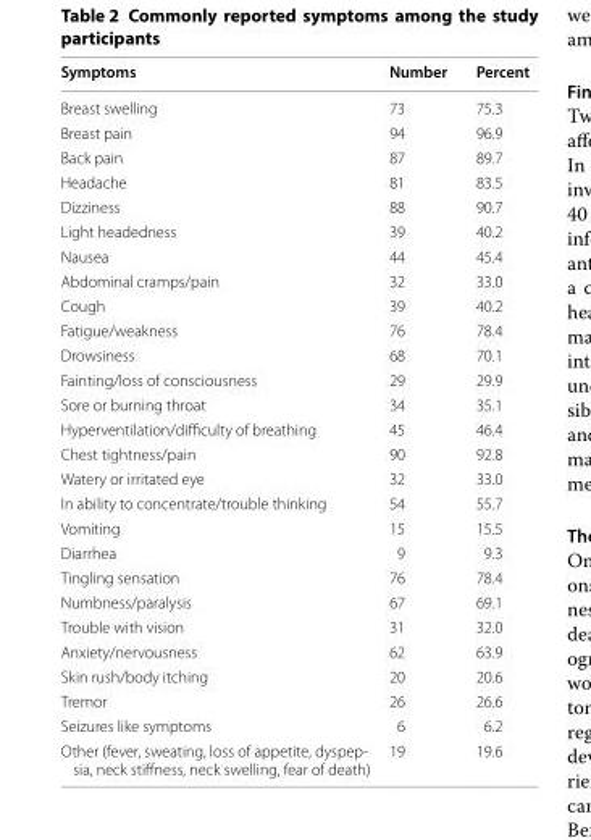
<table><thead><tr><td>Symptoms</td><td>Number</td><td>Percent</td></tr></thead><tbody><tr><td>Breast swelling</td><td>73</td><td>75.3</td></tr><tr><td>Breast pain</td><td>94</td><td>96.9</td></tr><tr><td>Back pain</td><td>87</td><td>89.7</td></tr><tr><td>Headache</td><td>81</td><td>83.5</td></tr><tr><td>Dizziness</td><td>88</td><td>90.7</td></tr><tr><td>Light headedness</td><td>39</td><td>40.2</td></tr><tr><td>Nausea</td><td>44</td><td>45.4</td></tr><tr><td>Abdominal cramps/pain</td><td>32</td><td>33.0</td></tr><tr><td>Cough</td><td>39</td><td>40.2</td></tr><tr><td>Fatigue/weakness</td><td>76</td><td>78.4</td></tr><tr><td>Drowsiness</td><td>68</td><td>70.1</td></tr><tr><td>Fainting/loss of consciousness</td><td>29</td><td>29.9</td></tr><tr><td>Sore or burning throat</td><td>34</td><td>35.1</td></tr><tr><td>Hyperventilation/difficulty of breathing</td><td>45</td><td>46.4</td></tr><tr><td>Chest tightness/pain</td><td>90</td><td>92.8</td></tr><tr><td>Watery or irritated eye</td><td>32</td><td>33.0</td></tr><tr><td>In ability to concentrate/trouble thinking</td><td>54</td><td>55.7</td></tr><tr><td>Vomiting</td><td>15</td><td>15.5</td></tr><tr><td>Diarrhea</td><td>9</td><td>9.3</td></tr><tr><td>Tingling sensation</td><td>76</td><td>78.4</td></tr><tr><td>Numbness/paralysis</td><td>67</td><td>69.1</td></tr><tr><td>Trouble with vision</td><td>31</td><td>32.0</td></tr><tr><td>Anxiety/nervousness</td><td>62</td><td>63.9</td></tr><tr><td>Skin rush/body itching</td><td>20</td><td>20.6</td></tr><tr><td>Tremor</td><td>26</td><td>26.6</td></tr><tr><td>Seizures like symptoms</td><td>6</td><td>6.2</td></tr><tr><td>Other (fever, sweating, loss of appetite, dyspep- sia, neck stiffness, neck swelling, fear of death)</td><td>19</td><td>19.6</td></tr></tbody></table>